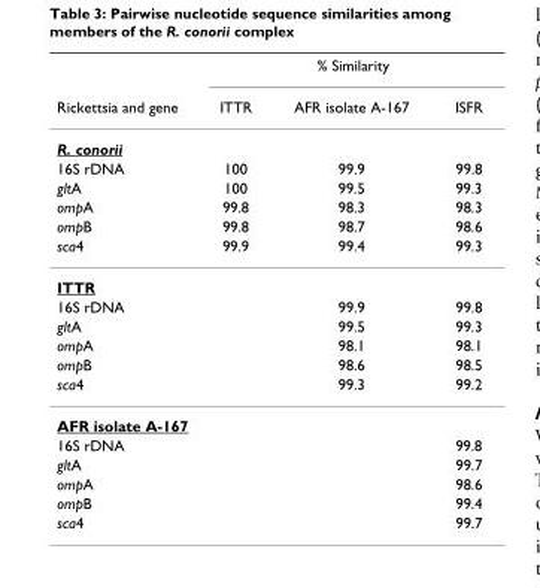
<table><thead><tr><td rowspan="2">Rickettsia and gene</td><td colspan="3">% Similarity</td></tr><tr><td>ITTR</td><td>AFR isolate A-167</td><td>ISFR</td></tr></thead><tbody><tr><td colspan="4">R. conorii</td></tr><tr><td>16S rDNA</td><td>100</td><td>99.9</td><td>99.8</td></tr><tr><td>gltA</td><td>100</td><td>99.5</td><td>99.3</td></tr><tr><td>ompA</td><td>99.8</td><td>98.3</td><td>98.3</td></tr><tr><td>ompB</td><td>99.8</td><td>98.7</td><td>98.6</td></tr><tr><td>sca4</td><td>99.9</td><td>99.4</td><td>99.3</td></tr><tr><td colspan="4">ITTR</td></tr><tr><td>16S rDNA</td><td></td><td>99.9</td><td>99.8</td></tr><tr><td>gltA</td><td></td><td>99.5</td><td>99.3</td></tr><tr><td>ompA</td><td></td><td>98.1</td><td>98.1</td></tr><tr><td>ompB</td><td></td><td>98.6</td><td>98.5</td></tr><tr><td>sca4</td><td></td><td>99.3</td><td>99.2</td></tr><tr><td colspan="4">AFR isolate A-167</td></tr><tr><td>16S rDNA</td><td></td><td></td><td>99.8</td></tr><tr><td>gltA</td><td></td><td></td><td>99.7</td></tr><tr><td>ompA</td><td></td><td></td><td>98.6</td></tr><tr><td>ompB</td><td></td><td></td><td>99.4</td></tr><tr><td>sca4</td><td></td><td></td><td>99.7</td></tr></tbody></table>